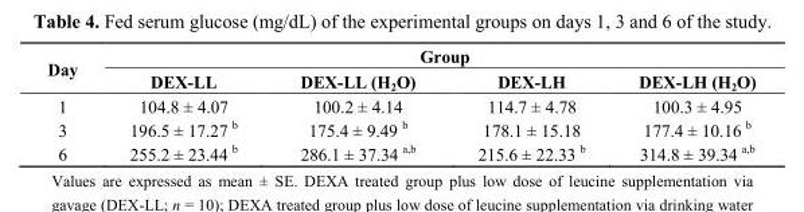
<table><thead><tr><td rowspan="2">Day</td><td colspan="4">Group</td></tr><tr><td>DEX-LL</td><td>DEX-LL (H<sub>2</sub>O)</td><td>DEX-LH</td><td>DEX-LH (H<sub>2</sub>O)</td></tr></thead><tbody><tr><td>1</td><td>104.8 ± 4.07</td><td>100.2 ± 4.14</td><td>114.7 ± 4.78</td><td>100.3 ± 4.95</td></tr><tr><td>3</td><td>196.5 ± 17.27 <sup>b</sup></td><td>175.4 ± 9.49 <sup>b</sup></td><td>178.1 ± 15.18</td><td>177.4 ± 10.16 <sup>b</sup></td></tr><tr><td>6</td><td>255.2 ± 23.44 <sup>b</sup></td><td>286.1 ± 37.34 <sup>a,b</sup></td><td>215.6 ± 22.33 <sup>b</sup></td><td>314.8 ± 39.34 <sup>a,b</sup></td></tr></tbody></table>